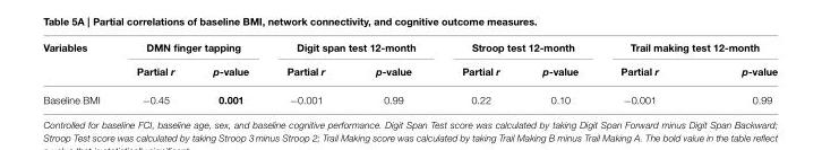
<table><thead><tr><td rowspan="2">Variables</td><td colspan="2">DMN finger tapping</td><td colspan="2">Digit span test 12-month</td><td colspan="2">Stroop test 12-month</td><td colspan="2">Trail making test 12-month</td></tr><tr><td>Partial r</td><td>p-value</td><td>Partial r</td><td>p-value</td><td>Partial r</td><td>p-value</td><td>Partial r</td><td>p-value</td></tr></thead><tbody><tr><td>Baseline BMI</td><td>−0.45</td><td>0.001</td><td>−0.001</td><td>0.99</td><td>0.22</td><td>0.10</td><td>−0.001</td><td>0.99</td></tr></tbody></table>